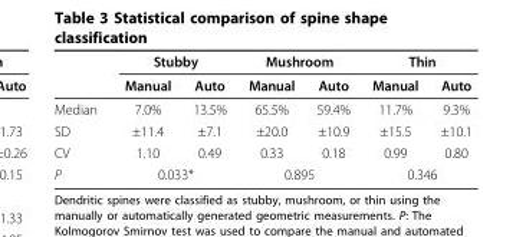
<table><thead><tr><td rowspan="2"></td><td colspan="2">Stubby</td><td colspan="2">Mushroom</td><td colspan="2">Thin</td></tr><tr><td>Manual</td><td>Auto</td><td>Manual</td><td>Auto</td><td>Manual</td><td>Auto</td></tr></thead><tbody><tr><td>Median</td><td>7.0%</td><td>13.5%</td><td>65.5%</td><td>59.4%</td><td>11.7%</td><td>9.3%</td></tr><tr><td>SD</td><td>±11.4</td><td>±7.1</td><td>±20.0</td><td>±10.9</td><td>±15.5</td><td>±10.1</td></tr><tr><td>CV</td><td>1.10</td><td>0.49</td><td>0.33</td><td>0.18</td><td>0.99</td><td>0.80</td></tr><tr><td>P</td><td colspan="2">0.033*</td><td colspan="2">0.895</td><td colspan="2">0.346</td></tr></tbody></table>